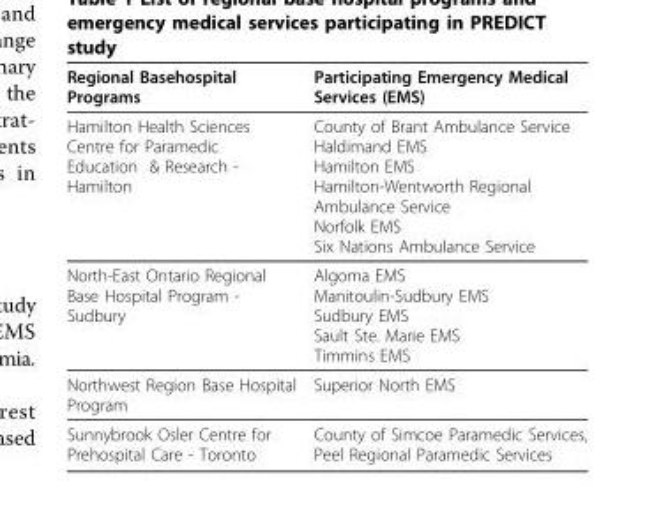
<table><thead><tr><td>Regional Basehospital Programs</td><td>Participating Emergency Medical Services (EMS)</td></tr></thead><tbody><tr><td>Hamilton Health Sciences Centre for Paramedic Education &amp; Research - Hamilton</td><td>County of Brant Ambulance Service Haldimand EMS Hamilton EMS Hamilton-Wentworth Regional Ambulance Service Norfolk EMS Six Nations Ambulance Service</td></tr><tr><td>North-East Ontario Regional Base Hospital Program - Sudbury</td><td>Algoma EMS Manitoulin-Sudbury EMS Sudbury EMS Sault Ste. Marie EMS Timmins EMS</td></tr><tr><td>Northwest Region Base Hospital Program</td><td>Superior North EMS</td></tr><tr><td>Sunnybrook Osler Centre for Prehospital Care - Toronto</td><td>County of Simcoe Paramedic Services, Peel Regional Paramedic Services</td></tr></tbody></table>